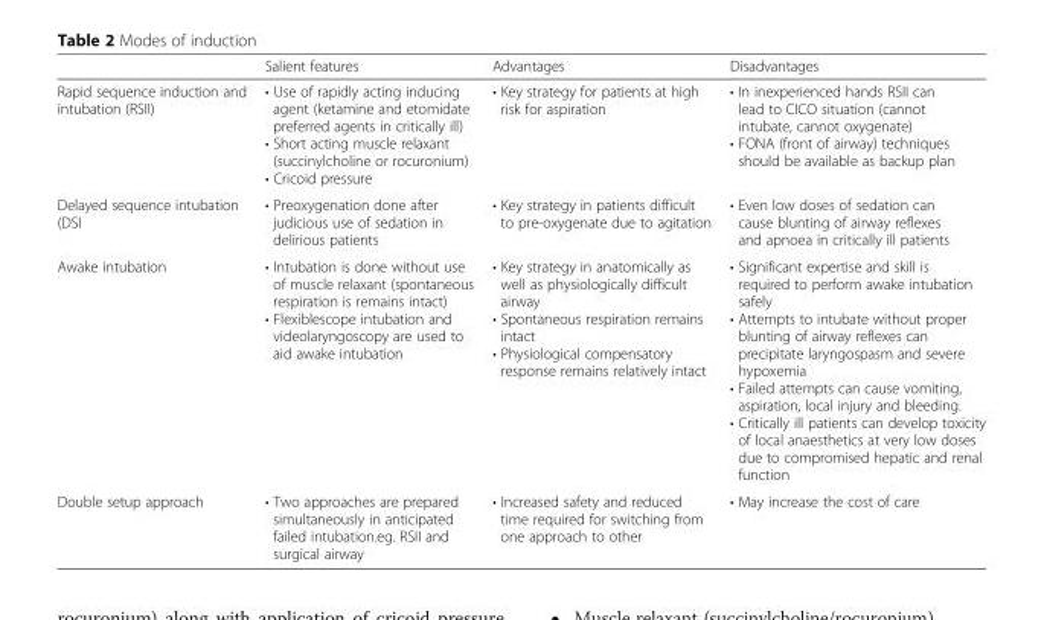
<table><thead><tr><td></td><td>Salient features</td><td>Advantages</td><td>Disadvantages</td></tr></thead><tbody><tr><td>Rapid sequence induction and intubation (RSII)</td><td>• Use of rapidly acting inducing agent (ketamine and etomidate preferred agents in critically ill) • Short acting muscle relaxant (succinylcholine or rocuronium) • Cricoid pressure</td><td>• Key strategy for patients at high risk for aspiration</td><td>• In inexperienced hands RSII can lead to CICO situation (cannot intubate, cannot oxygenate) • FONA (front of airway) techniques should be available as backup plan</td></tr><tr><td>Delayed sequence intubation (DSI</td><td>• Preoxygenation done after judicious use of sedation in delirious patients</td><td>• Key strategy in patients difficult to pre-oxygenate due to agitation</td><td>• Even low doses of sedation can cause blunting of airway reflexes and apnoea in critically ill patients</td></tr><tr><td>Awake intubation</td><td>• Intubation is done without use of muscle relaxant (spontaneous respiration is remains intact) • Flexiblescope intubation and videolaryngoscopy are used to aid awake intubation</td><td>• Key strategy in anatomically as well as physiologically difficult airway • Spontaneous respiration remains intact • Physiological compensatory response remains relatively intact</td><td>• Significant expertise and skill is required to perform awake intubation safely • Attempts to intubate without proper blunting of airway reflexes can precipitate laryngospasm and severe hypoxemia • Failed attempts can cause vomiting, aspiration, local injury and bleeding. • Critically ill patients can develop toxicity of local anaesthetics at very low doses due to compromised hepatic and renal function</td></tr><tr><td>Double setup approach</td><td>• Two approaches are prepared simultaneously in anticipated failed intubation.eg. RSII and surgical airway</td><td>• Increased safety and reduced time required for switching from one approach to other</td><td>• May increase the cost of care</td></tr></tbody></table>